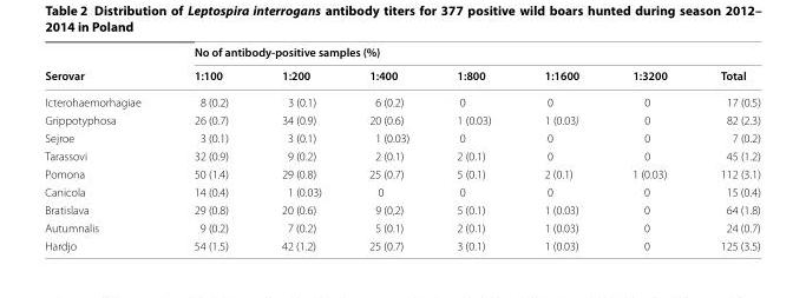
<table><thead><tr><td rowspan="2">Serovar</td><td colspan="7">No of antibody-positive samples (%)</td></tr><tr><td>1:100</td><td>1:200</td><td>1:400</td><td>1:800</td><td>1:1600</td><td>1:3200</td><td>Total</td></tr></thead><tbody><tr><td>Icterohaemorhagiae</td><td>8 (0.2)</td><td>3 (0.1)</td><td>6 (0.2)</td><td>0</td><td>0</td><td>0</td><td>17 (0.5)</td></tr><tr><td>Grippotyphosa</td><td>26 (0.7)</td><td>34 (0.9)</td><td>20 (0.6)</td><td>1 (0.03)</td><td>1 (0.03)</td><td>0</td><td>82 (2.3)</td></tr><tr><td>Sejroe</td><td>3 (0.1)</td><td>3 (0.1)</td><td>1 (0.03)</td><td>0</td><td>0</td><td>0</td><td>7 (0.2)</td></tr><tr><td>Tarassovi</td><td>32 (0.9)</td><td>9 (0.2)</td><td>2 (0.1)</td><td>2 (0.1)</td><td>0</td><td>0</td><td>45 (1.2)</td></tr><tr><td>Pomona</td><td>50 (1.4)</td><td>29 (0.8)</td><td>25 (0.7)</td><td>5 (0.1)</td><td>2 (0.1)</td><td>1 (0.03)</td><td>112 (3.1)</td></tr><tr><td>Canicola</td><td>14 (0.4)</td><td>1 (0.03)</td><td>0</td><td>0</td><td>0</td><td>0</td><td>15 (0.4)</td></tr><tr><td>Bratislava</td><td>29 (0.8)</td><td>20 (0.6)</td><td>9 (0,2)</td><td>5 (0.1)</td><td>1 (0.03)</td><td>0</td><td>64 (1.8)</td></tr><tr><td>Autumnalis</td><td>9 (0.2)</td><td>7 (0.2)</td><td>5 (0.1)</td><td>2 (0.1)</td><td>1 (0.03)</td><td>0</td><td>24 (0.7)</td></tr><tr><td>Hardjo</td><td>54 (1.5)</td><td>42 (1.2)</td><td>25 (0.7)</td><td>3 (0.1)</td><td>1 (0.03)</td><td>0</td><td>125 (3.5)</td></tr></tbody></table>